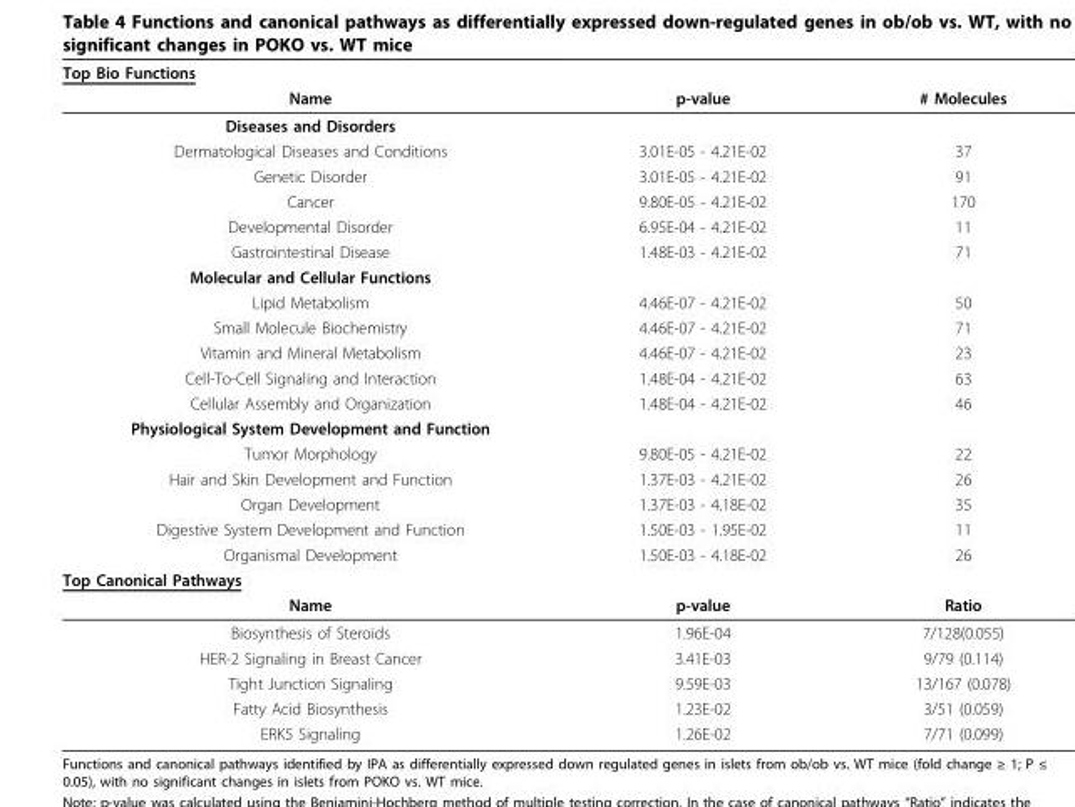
<table><thead><tr><td rowspan="2">Top Bio Functions Name</td><td rowspan="2">p-value</td><td rowspan="2"># Molecules</td></tr><tr></tr></thead><tbody><tr><td colspan="3">Diseases and Disorders</td></tr><tr><td>Dermatological Diseases and Conditions</td><td>3.01E-05 - 4.21E-02</td><td>37</td></tr><tr><td>Genetic Disorder</td><td>3.01E-05 - 4.21E-02</td><td>91</td></tr><tr><td>Cancer</td><td>9.80E-05 - 4.21E-02</td><td>170</td></tr><tr><td>Developmental Disorder</td><td>6.95E-04 - 4.21E-02</td><td>11</td></tr><tr><td>Gastrointestinal Disease</td><td>1.48E-03 - 4.21E-02</td><td>71</td></tr><tr><td colspan="3">Molecular and Cellular Functions</td></tr><tr><td>Lipid Metabolism</td><td>4.46E-07 - 4.21E-02</td><td>50</td></tr><tr><td>Small Molecule Biochemistry</td><td>4.46E-07 - 4.21E-02</td><td>71</td></tr><tr><td>Vitamin and Mineral Metabolism</td><td>4.46E-07 - 4.21E-02</td><td>23</td></tr><tr><td>Cell-To-Cell Signaling and Interaction</td><td>1.48E-04 - 4.21E-02</td><td>63</td></tr><tr><td>Cellular Assembly and Organization</td><td>1.48E-04 - 4.21E-02</td><td>46</td></tr><tr><td colspan="3">Physiological System Development and Function</td></tr><tr><td>Tumor Morphology</td><td>9.80E-05 - 4.21E-02</td><td>22</td></tr><tr><td>Hair and Skin Development and Function</td><td>1.37E-03 - 4.21E-02</td><td>26</td></tr><tr><td>Organ Development</td><td>1.37E-03 - 4.18E-02</td><td>35</td></tr><tr><td>Digestive System Development and Function</td><td>1.50E-03 - 1.95E-02</td><td>11</td></tr><tr><td>Organismal Development</td><td>1.50E-03 - 4.18E-02</td><td>26</td></tr><tr><td colspan="3">Top Canonical Pathways</td></tr><tr><td>Name</td><td>p-value</td><td>Ratio</td></tr><tr><td>Biosynthesis of Steroids</td><td>1.96E-04</td><td>7/128(0.055)</td></tr><tr><td>HER-2 Signaling in Breast Cancer</td><td>3.41E-03</td><td>9/79 (0.114)</td></tr><tr><td>Tight Junction Signaling</td><td>9.59E-03</td><td>13/167 (0.078)</td></tr><tr><td>Fatty Acid Biosynthesis</td><td>1.23E-02</td><td>3/51 (0.059)</td></tr><tr><td>ERK5 Signaling</td><td>1.26E-02</td><td>7/71 (0.099)</td></tr></tbody></table>